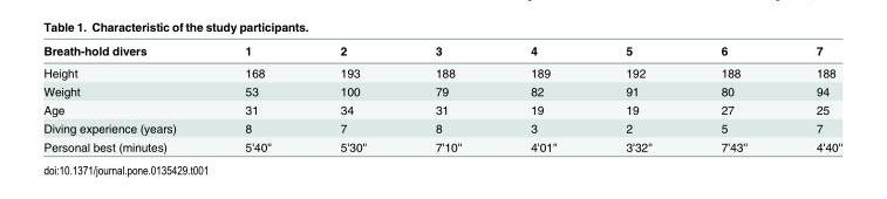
<table><thead><tr><td>Breath-hold divers</td><td>1</td><td>2</td><td>3</td><td>4</td><td>5</td><td>6</td><td>7</td></tr></thead><tbody><tr><td>Height</td><td>168</td><td>193</td><td>188</td><td>189</td><td>192</td><td>188</td><td>188</td></tr><tr><td>Weight</td><td>53</td><td>100</td><td>79</td><td>82</td><td>91</td><td>80</td><td>94</td></tr><tr><td>Age</td><td>31</td><td>34</td><td>31</td><td>19</td><td>19</td><td>27</td><td>25</td></tr><tr><td>Diving experience (years)</td><td>8</td><td>7</td><td>8</td><td>3</td><td>2</td><td>5</td><td>7</td></tr><tr><td>Personal best (minutes)</td><td>5&#x27;40&#x27;&#x27;</td><td>5&#x27;30&#x27;&#x27;</td><td>7&#x27;10&#x27;&#x27;</td><td>4&#x27;01&#x27;&#x27;</td><td>3&#x27;32&#x27;&#x27;</td><td>7&#x27;43&#x27;&#x27;</td><td>4&#x27;40&#x27;&#x27;</td></tr></tbody></table>